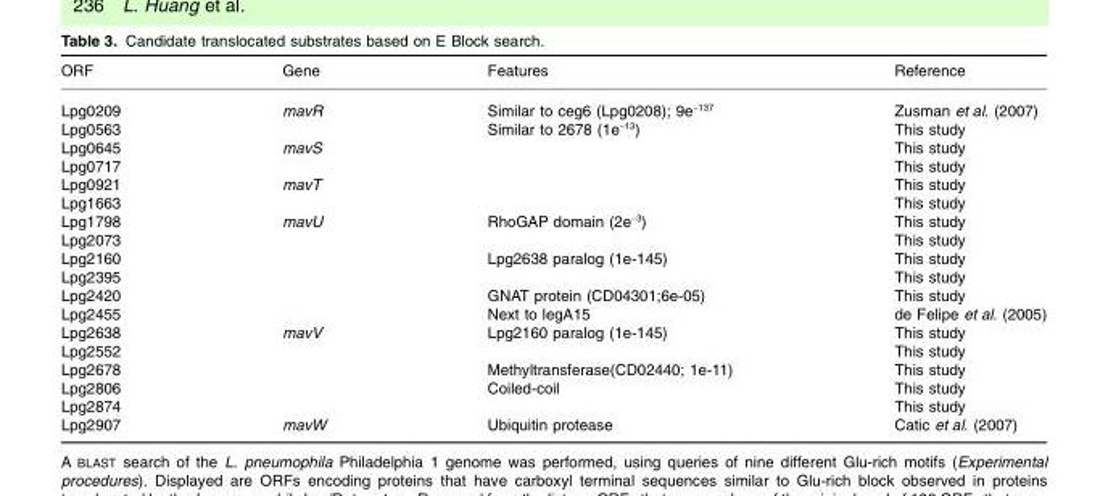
<table><thead><tr><td>ORF</td><td>Gene</td><td>Features</td><td>Reference</td></tr></thead><tbody><tr><td>Lpg0209</td><td>mavR</td><td>Similar to ceg6 (Lpg0208); 9e<sup>-137</sup></td><td>Zusman et al. (2007)</td></tr><tr><td>Lpg0563</td><td></td><td>Similar to 2678 (1e<sup>-13</sup>)</td><td>This study</td></tr><tr><td>Lpg0645</td><td>mavS</td><td></td><td>This study</td></tr><tr><td>Lpg0717</td><td></td><td></td><td>This study</td></tr><tr><td>Lpg0921</td><td>mavT</td><td></td><td>This study</td></tr><tr><td>Lpg1663</td><td></td><td></td><td>This study</td></tr><tr><td>Lpg1798</td><td>mavU</td><td>RhoGAP domain (2e<sup>-3</sup>)</td><td>This study</td></tr><tr><td>Lpg2073</td><td></td><td></td><td>This study</td></tr><tr><td>Lpg2160</td><td></td><td>Lpg2638 paralog (1e-145)</td><td>This study</td></tr><tr><td>Lpg2395</td><td></td><td></td><td>This study</td></tr><tr><td>Lpg2420</td><td></td><td>GNAT protein (CD04301;6e-05)</td><td>This study</td></tr><tr><td>Lpg2455</td><td></td><td>Next to legA15</td><td>de Felipe et al. (2005)</td></tr><tr><td>Lpg2638</td><td>mavV</td><td>Lpg2160 paralog (1e-145)</td><td>This study</td></tr><tr><td>Lpg2552</td><td></td><td></td><td>This study</td></tr><tr><td>Lpg2678</td><td></td><td>Methyltransferase(CD02440; 1e-11)</td><td>This study</td></tr><tr><td>Lpg2806</td><td></td><td>Coiled-coil</td><td>This study</td></tr><tr><td>Lpg2874</td><td></td><td></td><td>This study</td></tr><tr><td>Lpg2907</td><td>mavW</td><td>Ubiquitin protease</td><td>Catic et al. (2007)</td></tr></tbody></table>